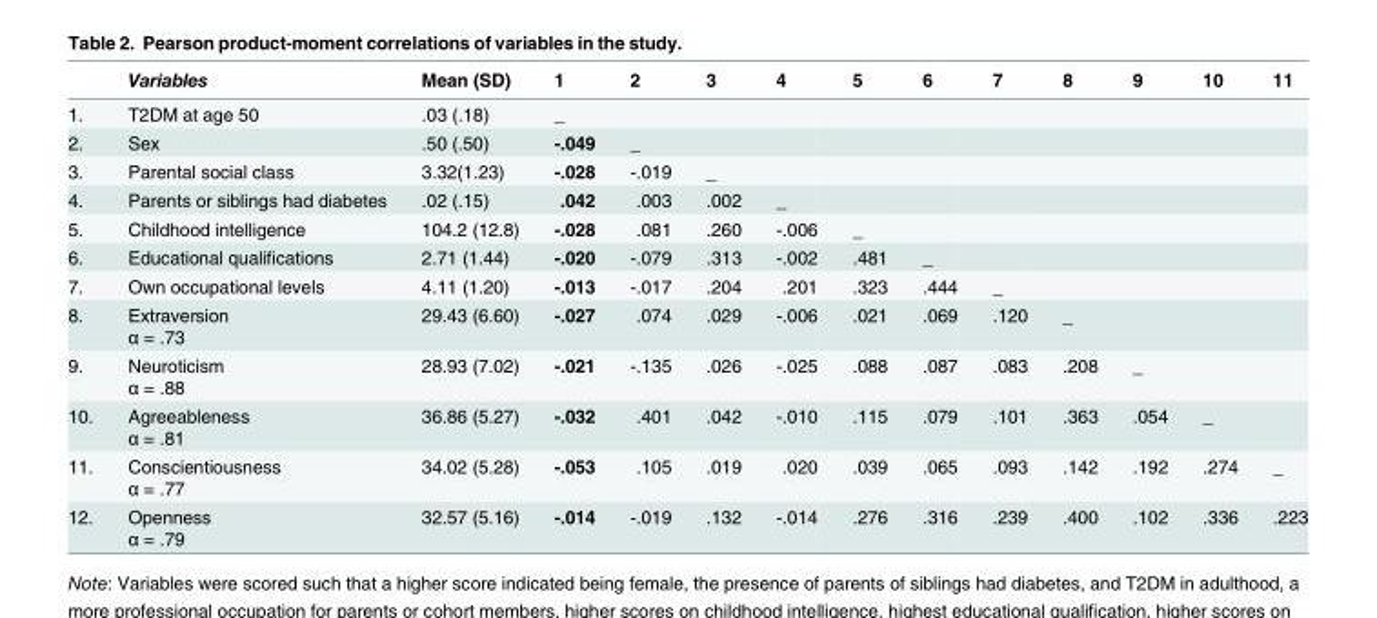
<table><thead><tr><td></td><td>Variables</td><td>Mean (SD)</td><td>1</td><td>2</td><td>3</td><td>4</td><td>5</td><td>6</td><td>7</td><td>8</td><td>9</td><td>10</td><td>11</td></tr></thead><tbody><tr><td>1.</td><td>T2DM at age 50</td><td>.03 (.18)</td><td>_</td><td></td><td></td><td></td><td></td><td></td><td></td><td></td><td></td><td></td><td></td></tr><tr><td>2.</td><td>Sex</td><td>.50 (.50)</td><td>-.049</td><td>_</td><td></td><td></td><td></td><td></td><td></td><td></td><td></td><td></td><td></td></tr><tr><td>3.</td><td>Parental social class</td><td>3.32(1.23)</td><td>-.028</td><td>-.019</td><td>_</td><td></td><td></td><td></td><td></td><td></td><td></td><td></td><td></td></tr><tr><td>4.</td><td>Parents or siblings had diabetes</td><td>.02 (.15)</td><td>.042</td><td>.003</td><td>.002</td><td>_</td><td></td><td></td><td></td><td></td><td></td><td></td><td></td></tr><tr><td>5.</td><td>Childhood intelligence</td><td>104.2 (12.8)</td><td>-.028</td><td>.081</td><td>.260</td><td>-.006</td><td>_</td><td></td><td></td><td></td><td></td><td></td><td></td></tr><tr><td>6.</td><td>Educational qualifications</td><td>2.71 (1.44)</td><td>-.020</td><td>-.079</td><td>.313</td><td>-.002</td><td>.481</td><td>_</td><td></td><td></td><td></td><td></td><td></td></tr><tr><td>7.</td><td>Own occupational levels</td><td>4.11 (1.20)</td><td>-.013</td><td>-.017</td><td>.204</td><td>.201</td><td>.323</td><td>.444</td><td>_</td><td></td><td></td><td></td><td></td></tr><tr><td>8.</td><td>Extraversion α = .73</td><td>29.43 (6.60)</td><td>-.027</td><td>.074</td><td>.029</td><td>-.006</td><td>.021</td><td>.069</td><td>.120</td><td>_</td><td></td><td></td><td></td></tr><tr><td>9.</td><td>Neuroticism α = .88</td><td>28.93 (7.02)</td><td>-.021</td><td>-.135</td><td>.026</td><td>-.025</td><td>.088</td><td>.087</td><td>.083</td><td>.208</td><td>_</td><td></td><td></td></tr><tr><td>10.</td><td>Agreeableness α = .81</td><td>36.86 (5.27)</td><td>-.032</td><td>.401</td><td>.042</td><td>-.010</td><td>.115</td><td>.079</td><td>.101</td><td>.363</td><td>.054</td><td>_</td><td></td></tr><tr><td>11.</td><td>Conscientiousness α = .77</td><td>34.02 (5.28)</td><td>-.053</td><td>.105</td><td>.019</td><td>.020</td><td>.039</td><td>.065</td><td>.093</td><td>.142</td><td>.192</td><td>.274</td><td>_</td></tr><tr><td>12.</td><td>Openness α = .79</td><td>32.57 (5.16)</td><td>-.014</td><td>-.019</td><td>.132</td><td>-.014</td><td>.276</td><td>.316</td><td>.239</td><td>.400</td><td>.102</td><td>.336</td><td>.223</td></tr></tbody></table>